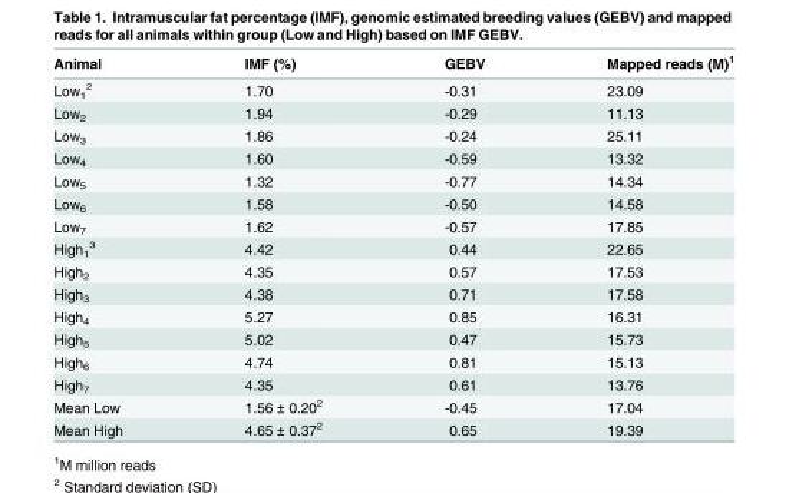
<table><thead><tr><td>Animal</td><td>IMF (%)</td><td>GEBV</td><td>Mapped reads (M)<sup>1</sup></td></tr></thead><tbody><tr><td>Low<sub>1</sub> <sup>2</sup></td><td>1.70</td><td>-0.31</td><td>23.09</td></tr><tr><td>Low<sub>2</sub></td><td>1.94</td><td>-0.29</td><td>11.13</td></tr><tr><td>Low<sub>3</sub></td><td>1.86</td><td>-0.24</td><td>25.11</td></tr><tr><td>Low<sub>4</sub></td><td>1.60</td><td>-0.59</td><td>13.32</td></tr><tr><td>Low<sub>5</sub></td><td>1.32</td><td>-0.77</td><td>14.34</td></tr><tr><td>Low<sub>6</sub></td><td>1.58</td><td>-0.50</td><td>14.58</td></tr><tr><td>Low<sub>7</sub></td><td>1.62</td><td>-0.57</td><td>17.85</td></tr><tr><td>High<sub>1</sub> <sup>3</sup></td><td>4.42</td><td>0.44</td><td>22.65</td></tr><tr><td>High<sub>2</sub></td><td>4.35</td><td>0.57</td><td>17.53</td></tr><tr><td>High<sub>3</sub></td><td>4.38</td><td>0.71</td><td>17.58</td></tr><tr><td>High<sub>4</sub></td><td>5.27</td><td>0.85</td><td>16.31</td></tr><tr><td>High<sub>5</sub></td><td>5.02</td><td>0.47</td><td>15.73</td></tr><tr><td>High<sub>6</sub></td><td>4.74</td><td>0.81</td><td>15.13</td></tr><tr><td>High<sub>7</sub></td><td>4.35</td><td>0.61</td><td>13.76</td></tr><tr><td>Mean Low</td><td>1.56 ± 0.20<sup>2</sup></td><td>-0.45</td><td>17.04</td></tr><tr><td>Mean High</td><td>4.65 ± 0.37<sup>2</sup></td><td>0.65</td><td>19.39</td></tr></tbody></table>